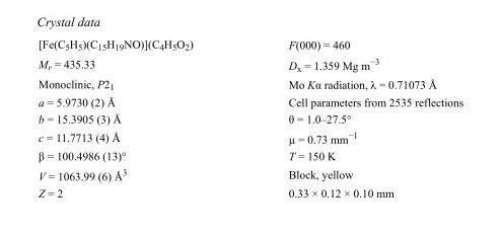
<table><tbody><tr><td>[Fe(C<sub>5</sub>H<sub>5</sub>)(C<sub>15</sub>H<sub>19</sub>NO)](C<sub>4</sub>H<sub>5</sub>O<sub>2</sub>)</td><td>F(000) = 460</td></tr><tr><td>M<sub>r</sub> = 435.33</td><td>D<sub>x</sub> = 1.359 Mg m<sup>−3</sup></td></tr><tr><td>Monoclinic, P2<sub>1</sub></td><td>Mo Kα radiation, λ = 0.71073 Å</td></tr><tr><td>a = 5.9730 (2) Å</td><td>Cell parameters from 2535 reflections</td></tr><tr><td>b = 15.3905 (3) Å</td><td>θ = 1.0–27.5°</td></tr><tr><td>c = 11.7713 (4) Å</td><td>µ = 0.73 mm<sup>−1</sup></td></tr><tr><td>β = 100.4986 (13)°</td><td>T = 150 K</td></tr><tr><td>V = 1063.99 (6) Å<sup>3</sup></td><td>Block, yellow</td></tr><tr><td>Z = 2</td><td>0.33 × 0.12 × 0.10 mm</td></tr></tbody></table>